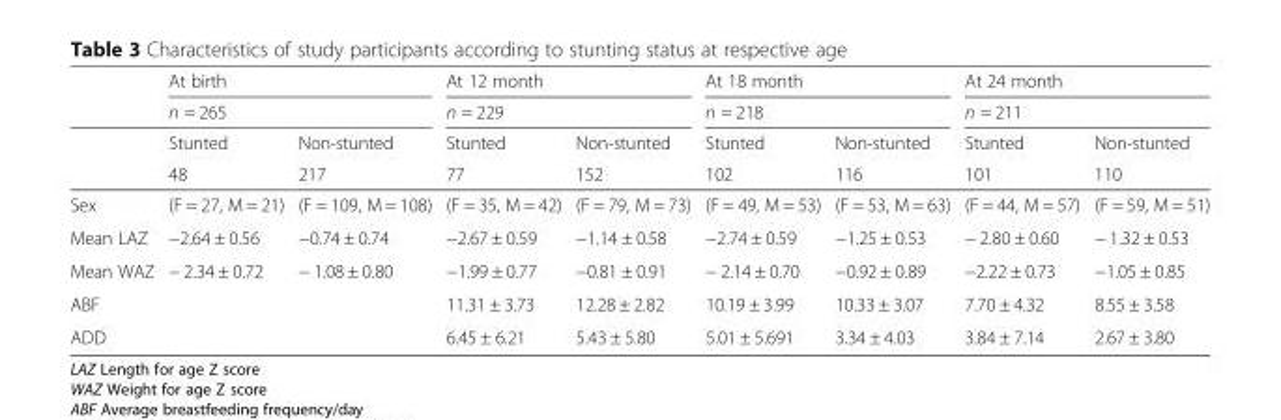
<table><thead><tr><td rowspan="4"></td><td rowspan="2" colspan="2">At birth n = 265</td><td rowspan="2" colspan="2">At 12 month n = 229</td><td rowspan="2" colspan="2">At 18 month n = 218</td><td rowspan="2" colspan="2">At 24 month n = 211</td></tr><tr></tr><tr><td rowspan="2">Stunted 48</td><td rowspan="2">Non-stunted 217</td><td rowspan="2">Stunted 77</td><td rowspan="2">Non-stunted 152</td><td rowspan="2">Stunted 102</td><td rowspan="2">Non-stunted 116</td><td rowspan="2">Stunted 101</td><td rowspan="2">Non-stunted 110</td></tr><tr></tr></thead><tbody><tr><td>Sex</td><td>(F = 27, M = 21)</td><td>(F = 109, M = 108)</td><td>(F = 35, M = 42)</td><td>(F = 79, M = 73)</td><td>(F = 49, M = 53)</td><td>(F = 53, M = 63)</td><td>(F = 44, M = 57)</td><td>(F = 59, M = 51)</td></tr><tr><td>Mean LAZ</td><td>−2.64 ± 0.56</td><td>−0.74 ± 0.74</td><td>−2.67 ± 0.59</td><td>−1.14 ± 0.58</td><td>−2.74 ± 0.59</td><td>−1.25 ± 0.53</td><td>− 2.80 ± 0.60</td><td>− 1.32 ± 0.53</td></tr><tr><td>Mean WAZ</td><td>− 2.34 ± 0.72</td><td>− 1.08 ± 0.80</td><td>−1.99 ± 0.77</td><td>−0.81 ± 0.91</td><td>− 2.14 ± 0.70</td><td>−0.92 ± 0.89</td><td>−2.22 ± 0.73</td><td>−1.05 ± 0.85</td></tr><tr><td>ABF</td><td></td><td></td><td>11.31 ± 3.73</td><td>12.28 ± 2.82</td><td>10.19 ± 3.99</td><td>10.33 ± 3.07</td><td>7.70 ± 4.32</td><td>8.55 ± 3.58</td></tr><tr><td>ADD</td><td></td><td></td><td>6.45 ± 6.21</td><td>5.43 ± 5.80</td><td>5.01 ± 5.691</td><td>3.34 ± 4.03</td><td>3.84 ± 7.14</td><td>2.67 ± 3.80</td></tr></tbody></table>